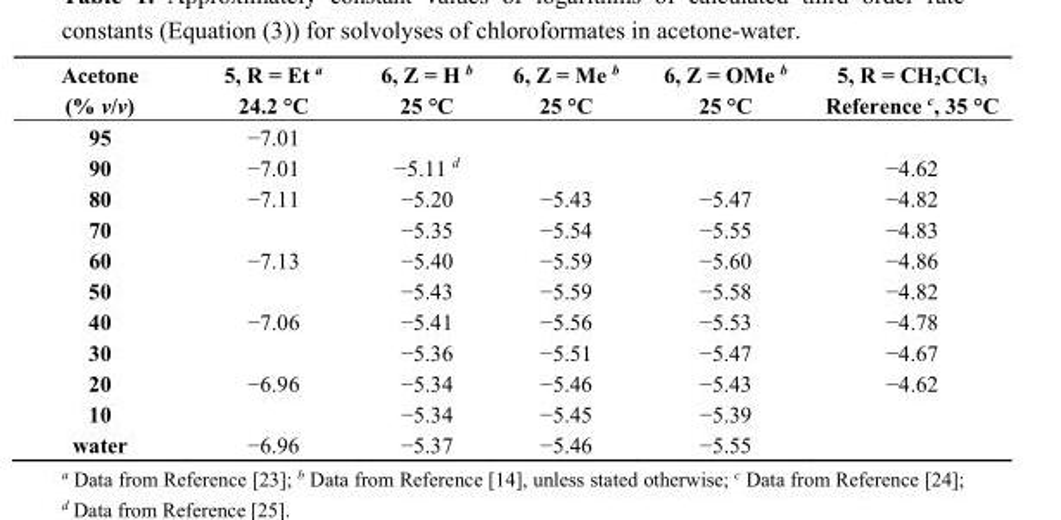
<table><thead><tr><td>Acetone (% v/v)</td><td>5, R = Et <sup>a</sup> 24.2 °C</td><td>6, Z = H <sup>b</sup> 25 °C</td><td>6, Z = Me <sup>b</sup> 25 °C</td><td>6, Z = OMe <sup>b</sup> 25 °C</td><td>5, R = CH<sub>2</sub>CCl<sub>3</sub> Reference <sup>c</sup>, 35 °C</td></tr></thead><tbody><tr><td>95</td><td>−7.01</td><td></td><td></td><td></td><td></td></tr><tr><td>90</td><td>−7.01</td><td>−5.11 <sup>d</sup></td><td></td><td></td><td>−4.62</td></tr><tr><td>80</td><td>−7.11</td><td>−5.20</td><td>−5.43</td><td>−5.47</td><td>−4.82</td></tr><tr><td>70</td><td></td><td>−5.35</td><td>−5.54</td><td>−5.55</td><td>−4.83</td></tr><tr><td>60</td><td>−7.13</td><td>−5.40</td><td>−5.59</td><td>−5.60</td><td>−4.86</td></tr><tr><td>50</td><td></td><td>−5.43</td><td>−5.59</td><td>−5.58</td><td>−4.82</td></tr><tr><td>40</td><td>−7.06</td><td>−5.41</td><td>−5.56</td><td>−5.53</td><td>−4.78</td></tr><tr><td>30</td><td></td><td>−5.36</td><td>−5.51</td><td>−5.47</td><td>−4.67</td></tr><tr><td>20</td><td>−6.96</td><td>−5.34</td><td>−5.46</td><td>−5.43</td><td>−4.62</td></tr><tr><td>10</td><td></td><td>−5.34</td><td>−5.45</td><td>−5.39</td><td></td></tr><tr><td>water</td><td>−6.96</td><td>−5.37</td><td>−5.46</td><td>−5.55</td><td></td></tr></tbody></table>